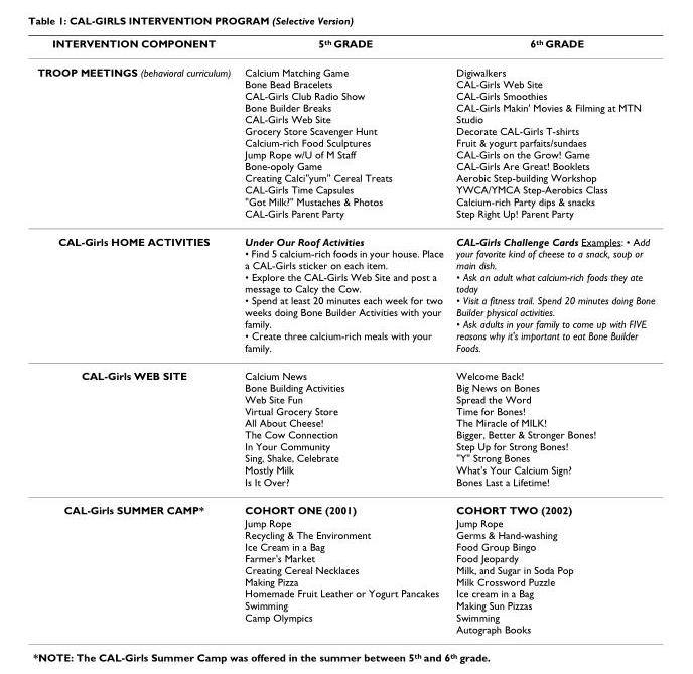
<table><thead><tr><td>INTERVENTION COMPONENT</td><td>5<sup>th</sup> GRADE</td><td>6<sup>th</sup> GRADE</td></tr></thead><tbody><tr><td>TROOP MEETINGS (behavioral curriculum)</td><td>Calcium Matching Game Bone Bead Bracelets CAL-Girls Club Radio Show Bone Builder Breaks CAL-Girls Web Site Grocery Store Scavenger Hunt Calcium-rich Food Sculptures Jump Rope w/U of M Staff Bone-opoly Game Creating Calci&quot;yum&quot; Cereal Treats CAL-Girls Time Capsules &quot;Got Milk?&quot; Mustaches &amp; Photos CAL-Girls Parent Party</td><td>Digiwalkers CAL-Girls Web Site CAL-Girls Smoothies CAL-Girls Makin&#x27; Movies &amp; Filming at MTN Studio Decorate CAL-Girls T-shirts Fruit &amp; yogurt parfaits/sundaes CAL-Girls on the Grow! Game CAL-Girls Are Great! Booklets Aerobic Step-building Workshop YWCA/YMCA Step-Aerobics Class Calcium-rich Party dips &amp; snacks Step Right Up! Parent Party</td></tr><tr><td>CAL-Girls HOME ACTIVITIES</td><td>Under Our Roof Activities • Find 5 calcium-rich foods in your house. Place a CAL-Girls sticker on each item. • Explore the CAL-Girls Web Site and post a message to Calcy the Cow. • Spend at least 20 minutes each week for two weeks doing Bone Builder Activities with your family. • Create three calcium-rich meals with your family.</td><td>CAL-Girls Challenge Cards Examples: • Add your favorite kind of cheese to a snack, soup or main dish. • Ask an adult what calcium-rich foods they ate today • Visit a fitness trail. Spend 20 minutes doing Bone Builder physical activities. • Ask adults in your family to come up with FIVE reasons why it&#x27;s important to eat Bone Builder Foods.</td></tr><tr><td>CAL-Girls WEB SITE</td><td>Calcium News Bone Building Activities Web Site Fun Virtual Grocery Store All About Cheese! The Cow Connection In Your Community Sing, Shake, Celebrate Mostly Milk Is It Over?</td><td>Welcome Back! Big News on Bones Spread the Word Time for Bones! The Miracle of MILK! Bigger, Better &amp; Stronger Bones! Step Up for Strong Bones! &quot;Y&quot; Strong Bones What&#x27;s Your Calcium Sign? Bones Last a Lifetime!</td></tr><tr><td rowspan="2">CAL-Girls SUMMER CAMP*</td><td>COHORT ONE (2001)</td><td>COHORT TWO (2002)</td></tr><tr><td>Jump Rope Recycling &amp; The Environment Ice Cream in a Bag Farmer&#x27;s Market Creating Cereal Necklaces Making Pizza Homemade Fruit Leather or Yogurt Pancakes Swimming Camp Olympics</td><td>Jump Rope Germs &amp; Hand-washing Food Group Bingo Food Jeopardy Milk, and Sugar in Soda Pop Milk Crossword Puzzle Ice cream in a Bag Making Sun Pizzas Swimming Autograph Books</td></tr></tbody></table>